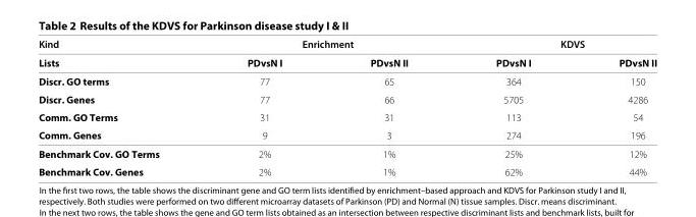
<table><thead><tr><td rowspan="2">Kind Lists</td><td colspan="2">Enrichment</td><td colspan="2">KDVS</td></tr><tr><td>PDvsN I</td><td>PDvsN II</td><td>PDvsN I</td><td>PDvsN II</td></tr></thead><tbody><tr><td>Discr. GO terms</td><td>77</td><td>65</td><td>364</td><td>150</td></tr><tr><td>Discr. Genes</td><td>77</td><td>66</td><td>5705</td><td>4286</td></tr><tr><td>Comm. GO Terms</td><td>31</td><td>31</td><td>113</td><td>54</td></tr><tr><td>Comm. Genes</td><td>9</td><td>3</td><td>274</td><td>196</td></tr><tr><td>Benchmark Cov. GO Terms</td><td>2%</td><td>1%</td><td>25%</td><td>12%</td></tr><tr><td>Benchmark Cov. Genes</td><td>2%</td><td>1%</td><td>62%</td><td>44%</td></tr></tbody></table>